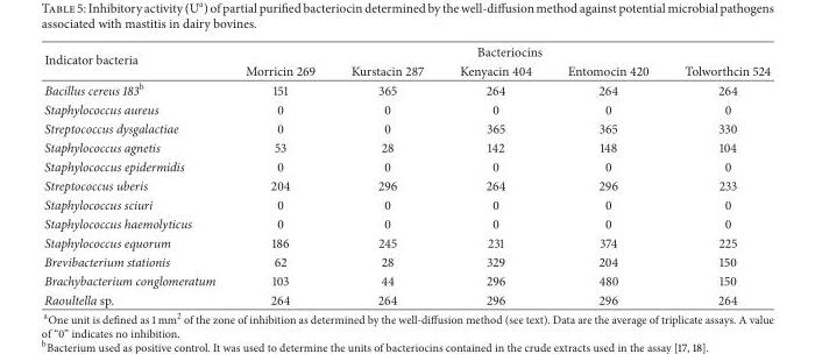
<table><thead><tr><td rowspan="2">Indicator bacteria</td><td colspan="5">Bacteriocins</td></tr><tr><td>Morricin 269</td><td>Kurstacin 287</td><td>Kenyacin 404</td><td>Entomocin 420</td><td>Tolworthcin 524</td></tr></thead><tbody><tr><td>Bacillus cereus 183<sup>b</sup></td><td>151</td><td>365</td><td>264</td><td>264</td><td>264</td></tr><tr><td>Staphylococcus aureus</td><td>0</td><td>0</td><td>0</td><td>0</td><td>0</td></tr><tr><td>Streptococcus dysgalactiae</td><td>0</td><td>0</td><td>365</td><td>365</td><td>330</td></tr><tr><td>Staphylococcus agnetis</td><td>53</td><td>28</td><td>142</td><td>148</td><td>104</td></tr><tr><td>Staphylococcus epidermidis</td><td>0</td><td>0</td><td>0</td><td>0</td><td>0</td></tr><tr><td>Streptococcus uberis</td><td>204</td><td>296</td><td>264</td><td>296</td><td>233</td></tr><tr><td>Staphylococcus sciuri</td><td>0</td><td>0</td><td>0</td><td>0</td><td>0</td></tr><tr><td>Staphylococcus haemolyticus</td><td>0</td><td>0</td><td>0</td><td>0</td><td>0</td></tr><tr><td>Staphylococcus equorum</td><td>186</td><td>245</td><td>231</td><td>374</td><td>225</td></tr><tr><td>Brevibacterium stationis</td><td>62</td><td>28</td><td>329</td><td>204</td><td>150</td></tr><tr><td>Brachybacterium conglomeratum</td><td>103</td><td>44</td><td>296</td><td>480</td><td>150</td></tr><tr><td>Raoultella sp.</td><td>264</td><td>264</td><td>296</td><td>296</td><td>264</td></tr></tbody></table>